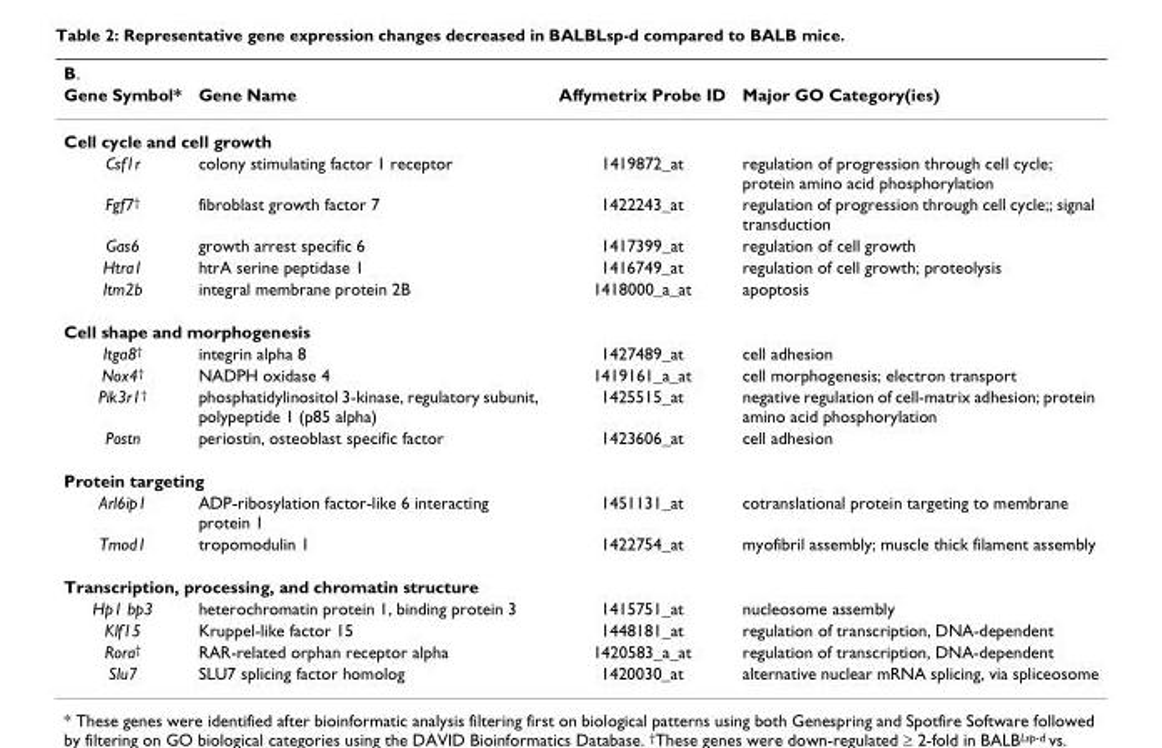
<table><thead><tr><td colspan="4">B.</td></tr><tr><td>Gene Symbol*</td><td>Gene Name</td><td>Affymetrix Probe ID</td><td>Major GO Category(ies)</td></tr></thead><tbody><tr><td colspan="4">Cell cycle and cell growth</td></tr><tr><td>Csf1r</td><td>colony stimulating factor 1 receptor</td><td>1419872_at</td><td>regulation of progression through cell cycle; protein amino acid phosphorylation</td></tr><tr><td>Fgf7<sup>†</sup></td><td>fibroblast growth factor 7</td><td>1422243_at</td><td>regulation of progression through cell cycle;; signal transduction</td></tr><tr><td>Gas6</td><td>growth arrest specific 6</td><td>1417399_at</td><td>regulation of cell growth</td></tr><tr><td>Htra1</td><td>htrA serine peptidase 1</td><td>1416749_at</td><td>regulation of cell growth; proteolysis</td></tr><tr><td>Itm2b</td><td>integral membrane protein 2B</td><td>1418000_a_at</td><td>apoptosis</td></tr><tr><td colspan="4">Cell shape and morphogenesis</td></tr><tr><td>Itga8<sup>†</sup></td><td>integrin alpha 8</td><td>1427489_at</td><td>cell adhesion</td></tr><tr><td>Nox4<sup>†</sup></td><td>NADPH oxidase 4</td><td>1419161_a_at</td><td>cell morphogenesis; electron transport</td></tr><tr><td>Pik3r1<sup>†</sup></td><td>phosphatidylinositol 3-kinase, regulatory subunit, polypeptide 1 (p85 alpha)</td><td>1425515_at</td><td>negative regulation of cell-matrix adhesion; protein amino acid phosphorylation</td></tr><tr><td>Postn</td><td>periostin, osteoblast specific factor</td><td>1423606_at</td><td>cell adhesion</td></tr><tr><td colspan="4">Protein targeting</td></tr><tr><td>Arl6ip1</td><td>ADP-ribosylation factor-like 6 interacting protein 1</td><td>1451131_at</td><td>cotranslational protein targeting to membrane</td></tr><tr><td>Tmod1</td><td>tropomodulin 1</td><td>1422754_at</td><td>myofibril assembly; muscle thick filament assembly</td></tr><tr><td colspan="4">Transcription, processing, and chromatin structure</td></tr><tr><td>Hp1 bp3</td><td>heterochromatin protein 1, binding protein 3</td><td>1415751_at</td><td>nucleosome assembly</td></tr><tr><td>Klf15</td><td>Kruppel-like factor 15</td><td>1448181_at</td><td>regulation of transcription, DNA-dependent</td></tr><tr><td>Rora<sup>†</sup></td><td>RAR-related orphan receptor alpha</td><td>1420583_a_at</td><td>regulation of transcription, DNA-dependent</td></tr><tr><td>Slu7</td><td>SLU7 splicing factor homolog</td><td>1420030_at</td><td>alternative nuclear mRNA splicing, via spliceosome</td></tr></tbody></table>